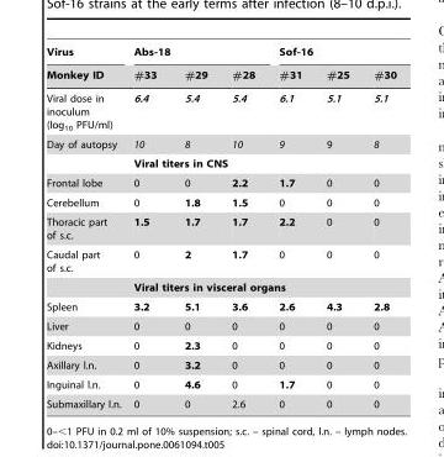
<table><thead><tr><td rowspan="2">Virus Monkey ID</td><td colspan="3">Abs-18</td><td colspan="3">Sof-16</td></tr><tr><td>#33</td><td>#29</td><td>#28</td><td>#31</td><td>#25</td><td>#30</td></tr></thead><tbody><tr><td>Viral dose in inoculum (log<sub>10</sub> PFU/ml)</td><td>6.4</td><td>5.4</td><td>5.4</td><td>6.1</td><td>5.1</td><td>5.1</td></tr><tr><td rowspan="2">Day of autopsy</td><td>10</td><td>8</td><td>10</td><td>9</td><td>9</td><td>8</td></tr><tr><td colspan="6">Viral titers in CNS</td></tr><tr><td>Frontal lobe</td><td>0</td><td>0</td><td>2.2</td><td>1.7</td><td>0</td><td>0</td></tr><tr><td>Cerebellum</td><td>0</td><td>1.8</td><td>1.5</td><td>0</td><td>0</td><td>0</td></tr><tr><td>Thoracic part of s.c.</td><td>1.5</td><td>1.7</td><td>1.7</td><td>2.2</td><td>0</td><td>0</td></tr><tr><td rowspan="2">Caudal part of s.c.</td><td>0</td><td>2</td><td>1.7</td><td>0</td><td>0</td><td>0</td></tr><tr><td colspan="6">Viral titers in visceral organs</td></tr><tr><td>Spleen</td><td>3.2</td><td>5.1</td><td>3.6</td><td>2.6</td><td>4.3</td><td>2.8</td></tr><tr><td>Liver</td><td>0</td><td>0</td><td>0</td><td>0</td><td>0</td><td>0</td></tr><tr><td>Kidneys</td><td>0</td><td>2.3</td><td>0</td><td>0</td><td>0</td><td>0</td></tr><tr><td>Axillary l.n.</td><td>0</td><td>3.2</td><td>0</td><td>0</td><td>0</td><td>0</td></tr><tr><td>Inguinal l.n.</td><td>0</td><td>4.6</td><td>0</td><td>1.7</td><td>0</td><td>0</td></tr><tr><td>Submaxillary l.n.</td><td>0</td><td>0</td><td>2.6</td><td>0</td><td>0</td><td>0</td></tr></tbody></table>